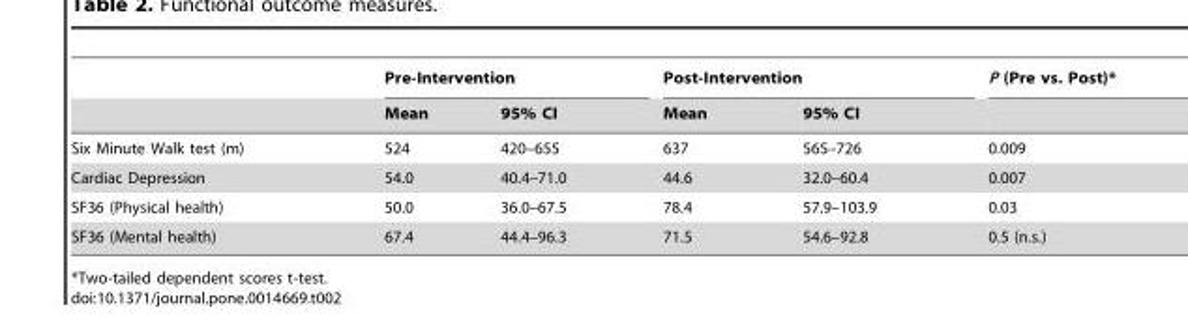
<table><thead><tr><td rowspan="2"></td><td colspan="2">Pre-Intervention</td><td colspan="2">Post-Intervention</td><td rowspan="2">P (Pre vs. Post)*</td></tr><tr><td>Mean</td><td>95% CI</td><td>Mean</td><td>95% CI</td></tr></thead><tbody><tr><td>Six Minute Walk test (m)</td><td>524</td><td>420–655</td><td>637</td><td>565–726</td><td>0.009</td></tr><tr><td>Cardiac Depression</td><td>54.0</td><td>40.4–71.0</td><td>44.6</td><td>32.0–60.4</td><td>0.007</td></tr><tr><td>SF36 (Physical health)</td><td>50.0</td><td>36.0–67.5</td><td>78.4</td><td>57.9–103.9</td><td>0.03</td></tr><tr><td>SF36 (Mental health)</td><td>67.4</td><td>44.4–96.3</td><td>71.5</td><td>54.6–92.8</td><td>0.5 (n.s.)</td></tr></tbody></table>